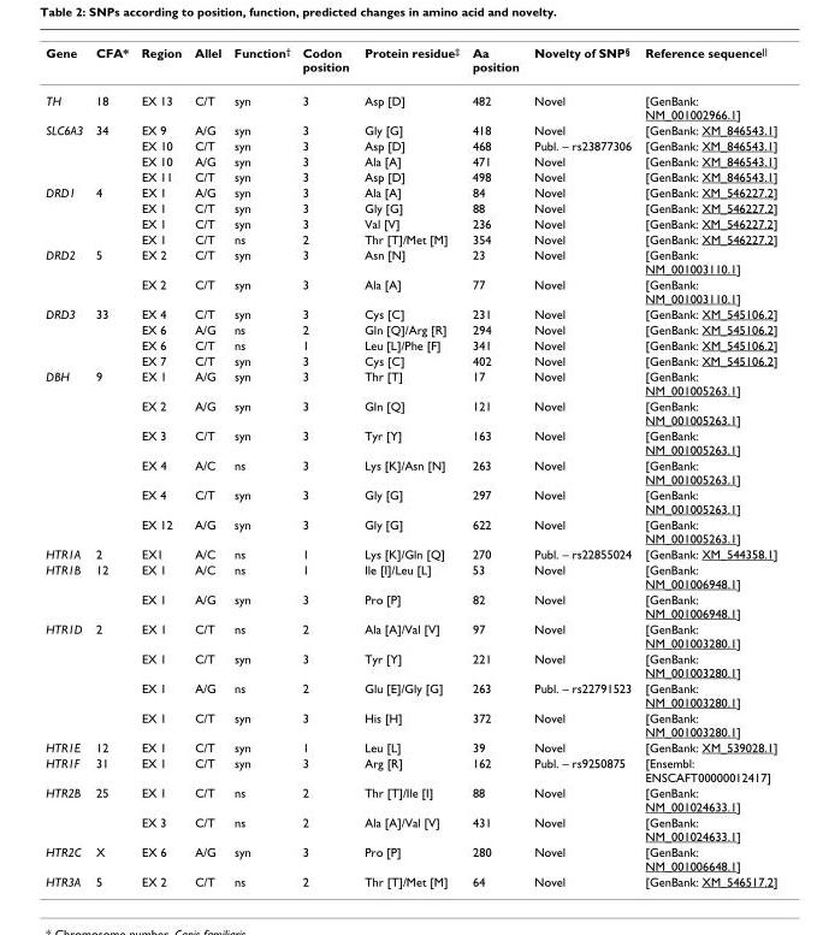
<table><tbody><tr><td>Gene</td><td>CFA*</td><td>Region</td><td>Allel</td><td>Function<sup>†</sup></td><td>Codon position</td><td>Protein residue<sup>‡</sup></td><td>Aa position</td><td>Novelty of SNP<sup>§</sup></td><td>Reference sequence<sup>||</sup></td></tr><tr><td>TH</td><td>18</td><td>EX 13</td><td>C/T</td><td>syn</td><td>3</td><td>Asp [D]</td><td>482</td><td>Novel</td><td>[GenBank: NM_001002966.1]</td></tr><tr><td rowspan="4">SLC6A3</td><td>34</td><td>EX 9</td><td>A/G</td><td>syn</td><td>3</td><td>Gly [G]</td><td>418</td><td>Novel</td><td>[GenBank: XM_846543.1]</td></tr><tr><td></td><td>EX 10</td><td>C/T</td><td>syn</td><td>3</td><td>Asp [D]</td><td>468</td><td>Publ. – rs23877306</td><td>[GenBank: XM_846543.1]</td></tr><tr><td></td><td>EX 10</td><td>A/G</td><td>syn</td><td>3</td><td>Ala [A]</td><td>471</td><td>Novel</td><td>[GenBank: XM_846543.1]</td></tr><tr><td></td><td>EX 11</td><td>C/T</td><td>syn</td><td>3</td><td>Asp [D]</td><td>498</td><td>Novel</td><td>[GenBank: XM_846543.1]</td></tr><tr><td rowspan="4">DRD1</td><td>4</td><td>EX 1</td><td>A/G</td><td>syn</td><td>3</td><td>Ala [A]</td><td>84</td><td>Novel</td><td>[GenBank: XM_546227.2]</td></tr><tr><td></td><td>EX 1</td><td>C/T</td><td>syn</td><td>3</td><td>Gly [G]</td><td>88</td><td>Novel</td><td>[GenBank: XM_546227.2]</td></tr><tr><td></td><td>EX 1</td><td>C/T</td><td>syn</td><td>3</td><td>Val [V]</td><td>236</td><td>Novel</td><td>[GenBank: XM_546227.2]</td></tr><tr><td></td><td>EX 1</td><td>C/T</td><td>ns</td><td>2</td><td>Thr [T]/Met [M]</td><td>354</td><td>Novel</td><td>[GenBank: XM_546227.2]</td></tr><tr><td rowspan="2">DRD2</td><td>5</td><td>EX 2</td><td>C/T</td><td>syn</td><td>3</td><td>Asn [N]</td><td>23</td><td>Novel</td><td>[GenBank: NM_001003110.1]</td></tr><tr><td></td><td>EX 2</td><td>C/T</td><td>syn</td><td>3</td><td>Ala [A]</td><td>77</td><td>Novel</td><td>[GenBank: NM_001003110.1]</td></tr><tr><td rowspan="4">DRD3</td><td>33</td><td>EX 4</td><td>C/T</td><td>syn</td><td>3</td><td>Cys [C]</td><td>231</td><td>Novel</td><td>[GenBank: XM_545106.2]</td></tr><tr><td></td><td>EX 6</td><td>A/G</td><td>ns</td><td>2</td><td>Gln [Q]/Arg [R]</td><td>294</td><td>Novel</td><td>[GenBank: XM_545106.2]</td></tr><tr><td></td><td>EX 6</td><td>C/T</td><td>ns</td><td>1</td><td>Leu [L]/Phe [F]</td><td>341</td><td>Novel</td><td>[GenBank: XM_545106.2]</td></tr><tr><td></td><td>EX 7</td><td>C/T</td><td>syn</td><td>3</td><td>Cys [C]</td><td>402</td><td>Novel</td><td>[GenBank: XM_545106.2]</td></tr><tr><td rowspan="6">DBH</td><td>9</td><td>EX 1</td><td>A/G</td><td>syn</td><td>3</td><td>Thr [T]</td><td>17</td><td>Novel</td><td>[GenBank: NM_001005263.1]</td></tr><tr><td></td><td>EX 2</td><td>A/G</td><td>syn</td><td>3</td><td>Gln [Q]</td><td>121</td><td>Novel</td><td>[GenBank: NM_001005263.1]</td></tr><tr><td></td><td>EX 3</td><td>C/T</td><td>syn</td><td>3</td><td>Tyr [Y]</td><td>163</td><td>Novel</td><td>[GenBank: NM_001005263.1]</td></tr><tr><td></td><td>EX 4</td><td>A/C</td><td>ns</td><td>3</td><td>Lys [K]/Asn [N]</td><td>263</td><td>Novel</td><td>[GenBank: NM_001005263.1]</td></tr><tr><td></td><td>EX 4</td><td>C/T</td><td>syn</td><td>3</td><td>Gly [G]</td><td>297</td><td>Novel</td><td>[GenBank: NM_001005263.1]</td></tr><tr><td></td><td>EX 12</td><td>A/G</td><td>syn</td><td>3</td><td>Gly [G]</td><td>622</td><td>Novel</td><td>[GenBank: NM_001005263.1]</td></tr><tr><td>HTR1A</td><td>2</td><td>EX1</td><td>A/C</td><td>ns</td><td>1</td><td>Lys [K]/Gln [Q]</td><td>270</td><td>Publ. – rs22855024</td><td>[GenBank: XM_544358.1]</td></tr><tr><td rowspan="2">HTR1B</td><td>12</td><td>EX 1</td><td>A/C</td><td>ns</td><td>1</td><td>Ile [I]/Leu [L]</td><td>53</td><td>Novel</td><td>[GenBank: NM_001006948.1]</td></tr><tr><td></td><td>EX 1</td><td>A/G</td><td>syn</td><td>3</td><td>Pro [P]</td><td>82</td><td>Novel</td><td>[GenBank: NM_001006948.1]</td></tr><tr><td rowspan="4">HTR1D</td><td>2</td><td>EX 1</td><td>C/T</td><td>ns</td><td>2</td><td>Ala [A]/Val [V]</td><td>97</td><td>Novel</td><td>[GenBank: NM_001003280.1]</td></tr><tr><td></td><td>EX 1</td><td>C/T</td><td>syn</td><td>3</td><td>Tyr [Y]</td><td>221</td><td>Novel</td><td>[GenBank: NM_001003280.1]</td></tr><tr><td></td><td>EX 1</td><td>A/G</td><td>ns</td><td>2</td><td>Glu [E]/Gly [G]</td><td>263</td><td>Publ. – rs22791523</td><td>[GenBank: NM_001003280.1]</td></tr><tr><td></td><td>EX 1</td><td>C/T</td><td>syn</td><td>3</td><td>His [H]</td><td>372</td><td>Novel</td><td>[GenBank: NM_001003280.1]</td></tr><tr><td>HTR1E</td><td>12</td><td>EX 1</td><td>C/T</td><td>syn</td><td>1</td><td>Leu [L]</td><td>39</td><td>Novel</td><td>[GenBank: XM_539028.1]</td></tr><tr><td>HTR1F</td><td>31</td><td>EX 1</td><td>C/T</td><td>syn</td><td>3</td><td>Arg [R]</td><td>162</td><td>Publ. – rs9250875</td><td>[Ensembl: ENSCAFT00000012417]</td></tr><tr><td rowspan="2">HTR2B</td><td>25</td><td>EX 1</td><td>C/T</td><td>ns</td><td>2</td><td>Thr [T]/Ile [I]</td><td>88</td><td>Novel</td><td>[GenBank: NM_001024633.1]</td></tr><tr><td></td><td>EX 3</td><td>C/T</td><td>ns</td><td>2</td><td>Ala [A]/Val [V]</td><td>431</td><td>Novel</td><td>[GenBank: NM_001024633.1]</td></tr><tr><td>HTR2C</td><td>X</td><td>EX 6</td><td>A/G</td><td>syn</td><td>3</td><td>Pro [P]</td><td>280</td><td>Novel</td><td>[GenBank: NM_001006648.1]</td></tr><tr><td>HTR3A</td><td>5</td><td>EX 2</td><td>C/T</td><td>ns</td><td>2</td><td>Thr [T]/Met [M]</td><td>64</td><td>Novel</td><td>[GenBank: XM_546517.2]</td></tr></tbody></table>